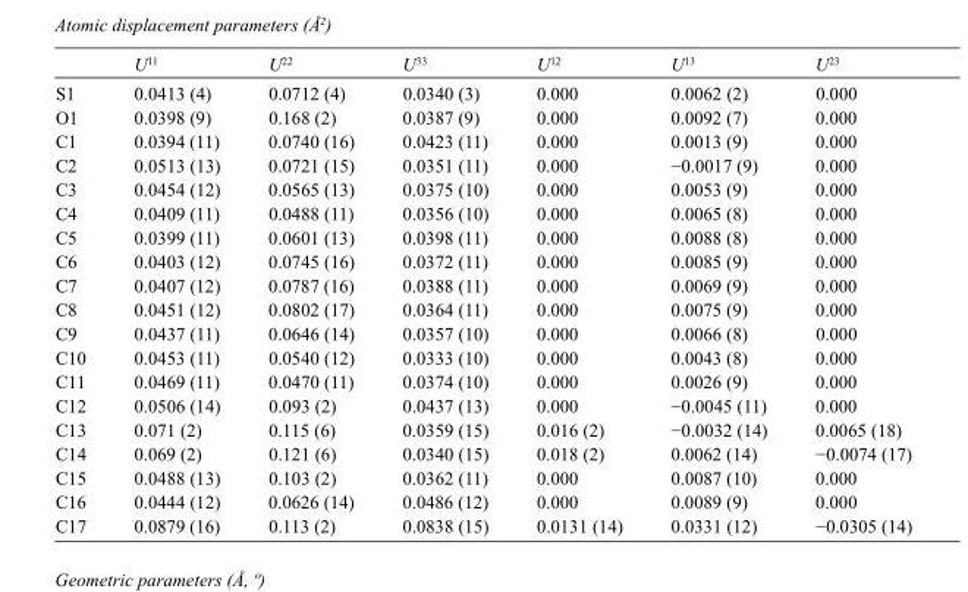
<table><thead><tr><td></td><td>U<sup>11</sup></td><td>U<sup>22</sup></td><td>U<sup>33</sup></td><td>U<sup>12</sup></td><td>U<sup>13</sup></td><td>U<sup>23</sup></td></tr></thead><tbody><tr><td>S1</td><td>0.0413 (4)</td><td>0.0712 (4)</td><td>0.0340 (3)</td><td>0.000</td><td>0.0062 (2)</td><td>0.000</td></tr><tr><td>O1</td><td>0.0398 (9)</td><td>0.168 (2)</td><td>0.0387 (9)</td><td>0.000</td><td>0.0092 (7)</td><td>0.000</td></tr><tr><td>C1</td><td>0.0394 (11)</td><td>0.0740 (16)</td><td>0.0423 (11)</td><td>0.000</td><td>0.0013 (9)</td><td>0.000</td></tr><tr><td>C2</td><td>0.0513 (13)</td><td>0.0721 (15)</td><td>0.0351 (11)</td><td>0.000</td><td>−0.0017 (9)</td><td>0.000</td></tr><tr><td>C3</td><td>0.0454 (12)</td><td>0.0565 (13)</td><td>0.0375 (10)</td><td>0.000</td><td>0.0053 (9)</td><td>0.000</td></tr><tr><td>C4</td><td>0.0409 (11)</td><td>0.0488 (11)</td><td>0.0356 (10)</td><td>0.000</td><td>0.0065 (8)</td><td>0.000</td></tr><tr><td>C5</td><td>0.0399 (11)</td><td>0.0601 (13)</td><td>0.0398 (11)</td><td>0.000</td><td>0.0088 (8)</td><td>0.000</td></tr><tr><td>C6</td><td>0.0403 (12)</td><td>0.0745 (16)</td><td>0.0372 (11)</td><td>0.000</td><td>0.0085 (9)</td><td>0.000</td></tr><tr><td>C7</td><td>0.0407 (12)</td><td>0.0787 (16)</td><td>0.0388 (11)</td><td>0.000</td><td>0.0069 (9)</td><td>0.000</td></tr><tr><td>C8</td><td>0.0451 (12)</td><td>0.0802 (17)</td><td>0.0364 (11)</td><td>0.000</td><td>0.0075 (9)</td><td>0.000</td></tr><tr><td>C9</td><td>0.0437 (11)</td><td>0.0646 (14)</td><td>0.0357 (10)</td><td>0.000</td><td>0.0066 (8)</td><td>0.000</td></tr><tr><td>C10</td><td>0.0453 (11)</td><td>0.0540 (12)</td><td>0.0333 (10)</td><td>0.000</td><td>0.0043 (8)</td><td>0.000</td></tr><tr><td>C11</td><td>0.0469 (11)</td><td>0.0470 (11)</td><td>0.0374 (10)</td><td>0.000</td><td>0.0026 (9)</td><td>0.000</td></tr><tr><td>C12</td><td>0.0506 (14)</td><td>0.093 (2)</td><td>0.0437 (13)</td><td>0.000</td><td>−0.0045 (11)</td><td>0.000</td></tr><tr><td>C13</td><td>0.071 (2)</td><td>0.115 (6)</td><td>0.0359 (15)</td><td>0.016 (2)</td><td>−0.0032 (14)</td><td>0.0065 (18)</td></tr><tr><td>C14</td><td>0.069 (2)</td><td>0.121 (6)</td><td>0.0340 (15)</td><td>0.018 (2)</td><td>0.0062 (14)</td><td>−0.0074 (17)</td></tr><tr><td>C15</td><td>0.0488 (13)</td><td>0.103 (2)</td><td>0.0362 (11)</td><td>0.000</td><td>0.0087 (10)</td><td>0.000</td></tr><tr><td>C16</td><td>0.0444 (12)</td><td>0.0626 (14)</td><td>0.0486 (12)</td><td>0.000</td><td>0.0089 (9)</td><td>0.000</td></tr><tr><td>C17</td><td>0.0879 (16)</td><td>0.113 (2)</td><td>0.0838 (15)</td><td>0.0131 (14)</td><td>0.0331 (12)</td><td>−0.0305 (14)</td></tr></tbody></table>